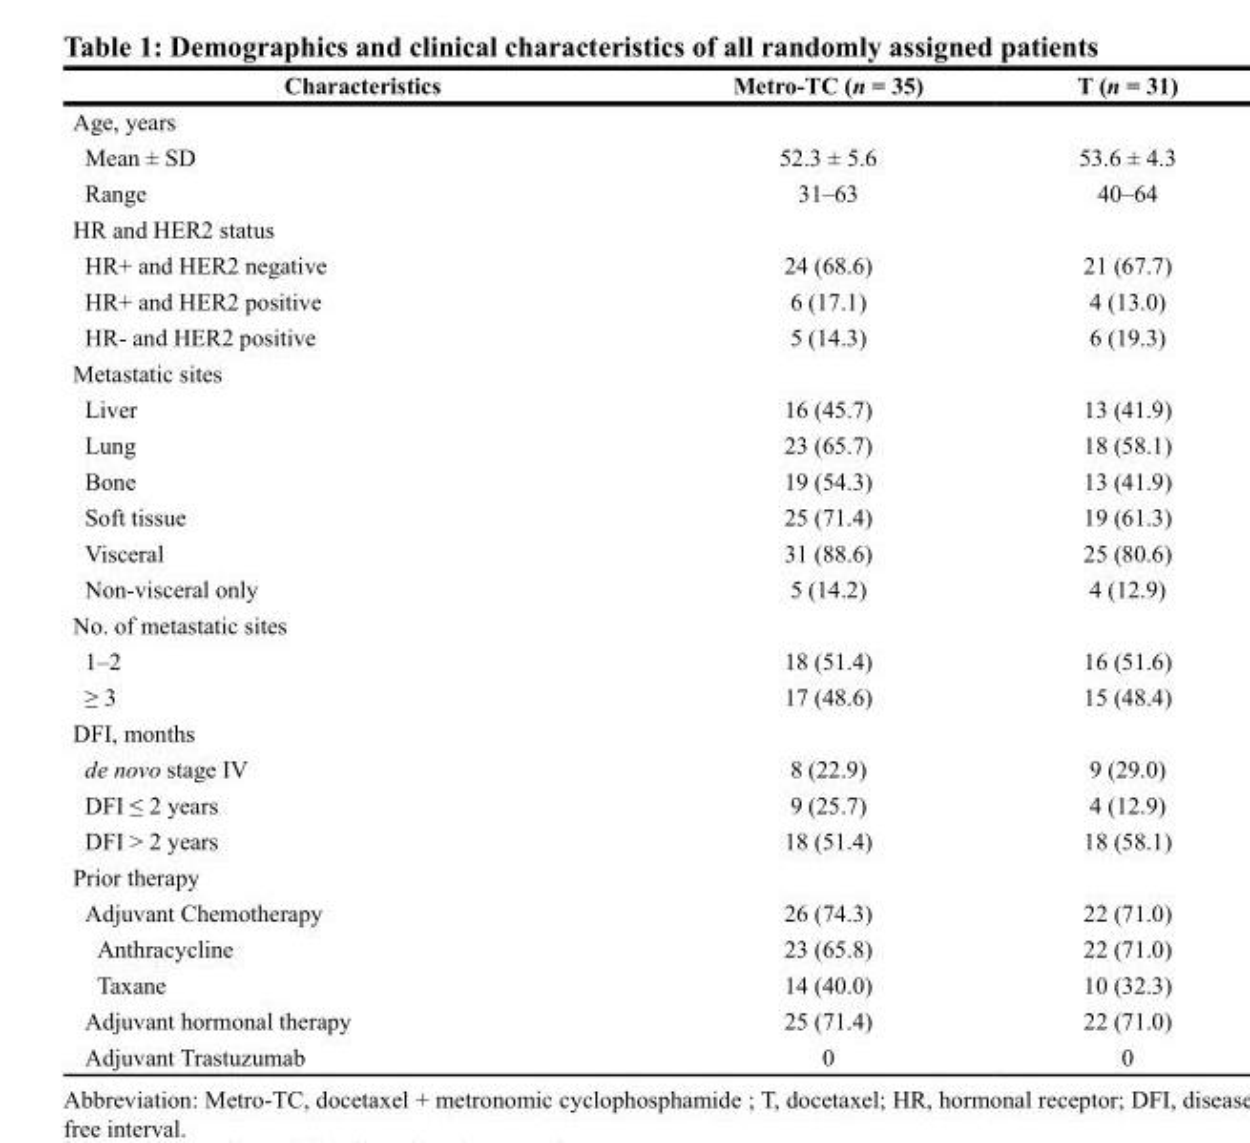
<table><thead><tr><td>Characteristics</td><td>Metro-TC (n = 35)</td><td>T (n = 31)</td></tr></thead><tbody><tr><td colspan="3">Age, years</td></tr><tr><td>Mean ± SD</td><td>52.3 ± 5.6</td><td>53.6 ± 4.3</td></tr><tr><td>Range</td><td>31–63</td><td>40–64</td></tr><tr><td colspan="3">HR and HER2 status</td></tr><tr><td>HR+ and HER2 negative</td><td>24 (68.6)</td><td>21 (67.7)</td></tr><tr><td>HR+ and HER2 positive</td><td>6 (17.1)</td><td>4 (13.0)</td></tr><tr><td>HR- and HER2 positive</td><td>5 (14.3)</td><td>6 (19.3)</td></tr><tr><td colspan="3">Metastatic sites</td></tr><tr><td>Liver</td><td>16 (45.7)</td><td>13 (41.9)</td></tr><tr><td>Lung</td><td>23 (65.7)</td><td>18 (58.1)</td></tr><tr><td>Bone</td><td>19 (54.3)</td><td>13 (41.9)</td></tr><tr><td>Soft tissue</td><td>25 (71.4)</td><td>19 (61.3)</td></tr><tr><td>Visceral</td><td>31 (88.6)</td><td>25 (80.6)</td></tr><tr><td>Non-visceral only</td><td>5 (14.2)</td><td>4 (12.9)</td></tr><tr><td colspan="3">No. of metastatic sites</td></tr><tr><td>1–2</td><td>18 (51.4)</td><td>16 (51.6)</td></tr><tr><td>≥ 3</td><td>17 (48.6)</td><td>15 (48.4)</td></tr><tr><td colspan="3">DFI, months</td></tr><tr><td>de novo stage IV</td><td>8 (22.9)</td><td>9 (29.0)</td></tr><tr><td>DFI ≤ 2 years</td><td>9 (25.7)</td><td>4 (12.9)</td></tr><tr><td>DFI &gt; 2 years</td><td>18 (51.4)</td><td>18 (58.1)</td></tr><tr><td colspan="3">Prior therapy</td></tr><tr><td>Adjuvant Chemotherapy</td><td>26 (74.3)</td><td>22 (71.0)</td></tr><tr><td>Anthracycline</td><td>23 (65.8)</td><td>22 (71.0)</td></tr><tr><td>Taxane</td><td>14 (40.0)</td><td>10 (32.3)</td></tr><tr><td>Adjuvant hormonal therapy</td><td>25 (71.4)</td><td>22 (71.0)</td></tr><tr><td>Adjuvant Trastuzumab</td><td>0</td><td>0</td></tr></tbody></table>